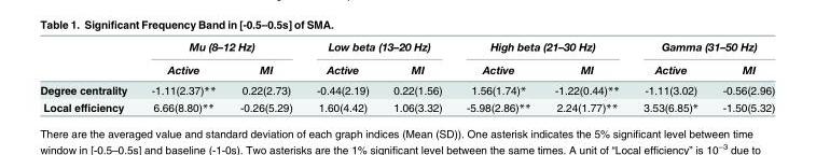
<table><thead><tr><td rowspan="2"></td><td colspan="2">Mu (8–12 Hz)</td><td colspan="2">Low beta (13–20 Hz)</td><td colspan="2">High beta (21–30 Hz)</td><td colspan="2">Gamma (31–50 Hz)</td></tr><tr><td>Active</td><td>MI</td><td>Active</td><td>MI</td><td>Active</td><td>MI</td><td>Active</td><td>MI</td></tr></thead><tbody><tr><td>Degree centrality</td><td>-1.11(2.37)**</td><td>0.22(2.73)</td><td>-0.44(2.19)</td><td>0.22(1.56)</td><td>1.56(1.74)*</td><td>-1.22(0.44)**</td><td>-1.11(3.02)</td><td>-0.56(2.96)</td></tr><tr><td>Local efficiency</td><td>6.66(8.80)**</td><td>-0.26(5.29)</td><td>1.60(4.42)</td><td>1.06(3.32)</td><td>-5.98(2.86)**</td><td>2.24(1.77)**</td><td>3.53(6.85)*</td><td>-1.50(5.32)</td></tr></tbody></table>